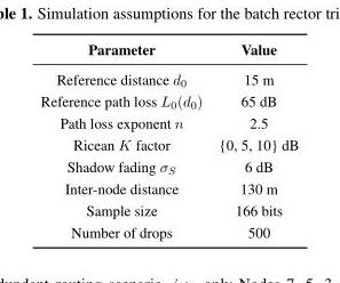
<table><thead><tr><td>Parameter</td><td>Value</td></tr></thead><tbody><tr><td>Reference distance d<sub>0</sub></td><td>15 m</td></tr><tr><td>Reference path loss L<sub>0</sub>(d<sub>0</sub>)</td><td>65 dB</td></tr><tr><td>Path loss exponent n</td><td>2.5</td></tr><tr><td>Ricean K factor</td><td>{0, 5, 10} dB</td></tr><tr><td>Shadow fading σ<sub>S</sub></td><td>6 dB</td></tr><tr><td>Inter-node distance</td><td>130 m</td></tr><tr><td>Sample size</td><td>166 bits</td></tr><tr><td>Number of drops</td><td>500</td></tr></tbody></table>